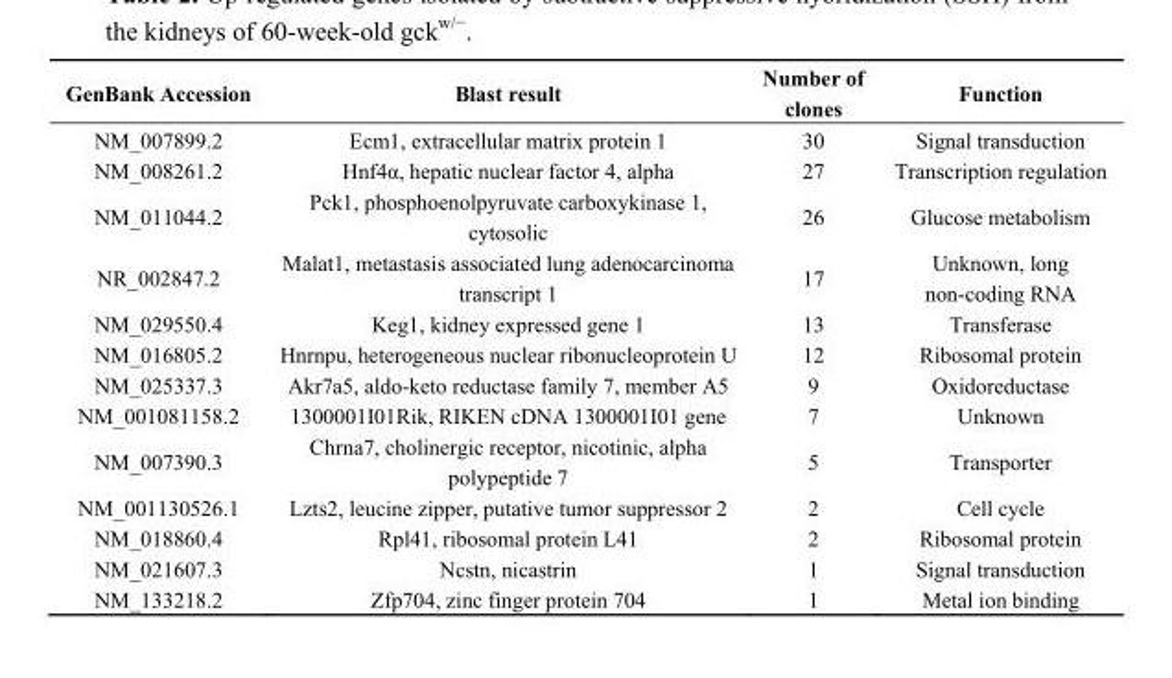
<table><thead><tr><td>GenBank Accession</td><td>Blast result</td><td>Number of clones</td><td>Function</td></tr></thead><tbody><tr><td>NM_007899.2</td><td>Ecm1, extracellular matrix protein 1</td><td>30</td><td>Signal transduction</td></tr><tr><td>NM_008261.2</td><td>Hnf4α, hepatic nuclear factor 4, alpha</td><td>27</td><td>Transcription regulation</td></tr><tr><td>NM_011044.2</td><td>Pck1, phosphoenolpyruvate carboxykinase 1, cytosolic</td><td>26</td><td>Glucose metabolism</td></tr><tr><td>NR_002847.2</td><td>Malat1, metastasis associated lung adenocarcinoma transcript 1</td><td>17</td><td>Unknown, long non-coding RNA</td></tr><tr><td>NM_029550.4</td><td>Keg1, kidney expressed gene 1</td><td>13</td><td>Transferase</td></tr><tr><td>NM_016805.2</td><td>Hnrnpu, heterogeneous nuclear ribonucleoprotein U</td><td>12</td><td>Ribosomal protein</td></tr><tr><td>NM_025337.3</td><td>Akr7a5, aldo-keto reductase family 7, member A5</td><td>9</td><td>Oxidoreductase</td></tr><tr><td>NM_001081158.2</td><td>1300001I01Rik, RIKEN cDNA 1300001I01 gene</td><td>7</td><td>Unknown</td></tr><tr><td>NM_007390.3</td><td>Chrna7, cholinergic receptor, nicotinic, alpha polypeptide 7</td><td>5</td><td>Transporter</td></tr><tr><td>NM_001130526.1</td><td>Lzts2, leucine zipper, putative tumor suppressor 2</td><td>2</td><td>Cell cycle</td></tr><tr><td>NM_018860.4</td><td>Rpl41, ribosomal protein L41</td><td>2</td><td>Ribosomal protein</td></tr><tr><td>NM_021607.3</td><td>Ncstn, nicastrin</td><td>1</td><td>Signal transduction</td></tr><tr><td>NM_133218.2</td><td>Zfp704, zinc finger protein 704</td><td>1</td><td>Metal ion binding</td></tr></tbody></table>